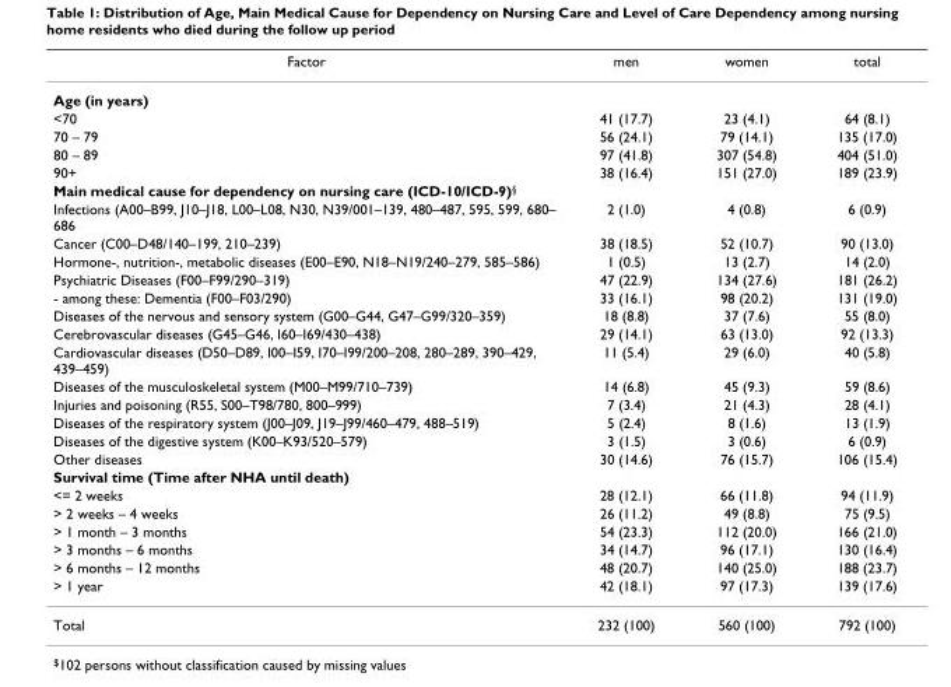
<table><thead><tr><td>Factor</td><td>men</td><td>women</td><td>total</td></tr></thead><tbody><tr><td colspan="4">Age (in years)</td></tr><tr><td>&lt;70</td><td>41 (17.7)</td><td>23 (4.1)</td><td>64 (8.1)</td></tr><tr><td>70 – 79</td><td>56 (24.1)</td><td>79 (14.1)</td><td>135 (17.0)</td></tr><tr><td>80 – 89</td><td>97 (41.8)</td><td>307 (54.8)</td><td>404 (51.0)</td></tr><tr><td>90+</td><td>38 (16.4)</td><td>151 (27.0)</td><td>189 (23.9)</td></tr><tr><td colspan="4">Main medical cause for dependency on nursing care (ICD-10/ICD-9)§</td></tr><tr><td>Infections (A00–B99, J10–J18, L00–L08, N30, N39/001–139, 480–487, 595, 599, 680– 686</td><td>2 (1.0)</td><td>4 (0.8)</td><td>6 (0.9)</td></tr><tr><td>Cancer (C00–D48/140–199, 210–239)</td><td>38 (18.5)</td><td>52 (10.7)</td><td>90 (13.0)</td></tr><tr><td>Hormone-, nutrition-, metabolic diseases (E00–E90, N18–N19/240–279, 585–586)</td><td>1 (0.5)</td><td>13 (2.7)</td><td>14 (2.0)</td></tr><tr><td>Psychiatric Diseases (F00–F99/290–319)</td><td>47 (22.9)</td><td>134 (27.6)</td><td>181 (26.2)</td></tr><tr><td>- among these: Dementia (F00–F03/290)</td><td>33 (16.1)</td><td>98 (20.2)</td><td>131 (19.0)</td></tr><tr><td>Diseases of the nervous and sensory system (G00–G44, G47–G99/320–359)</td><td>18 (8.8)</td><td>37 (7.6)</td><td>55 (8.0)</td></tr><tr><td>Cerebrovascular diseases (G45–G46, I60–I69/430–438)</td><td>29 (14.1)</td><td>63 (13.0)</td><td>92 (13.3)</td></tr><tr><td>Cardiovascular diseases (D50–D89, I00–I59, I70–I99/200–208, 280–289, 390–429, 439–459)</td><td>11 (5.4)</td><td>29 (6.0)</td><td>40 (5.8)</td></tr><tr><td>Diseases of the musculoskeletal system (M00–M99/710–739)</td><td>14 (6.8)</td><td>45 (9.3)</td><td>59 (8.6)</td></tr><tr><td>Injuries and poisoning (R55, S00–T98/780, 800–999)</td><td>7 (3.4)</td><td>21 (4.3)</td><td>28 (4.1)</td></tr><tr><td>Diseases of the respiratory system (J00–J09, J19–J99/460–479, 488–519)</td><td>5 (2.4)</td><td>8 (1.6)</td><td>13 (1.9)</td></tr><tr><td>Diseases of the digestive system (K00–K93/520–579)</td><td>3 (1.5)</td><td>3 (0.6)</td><td>6 (0.9)</td></tr><tr><td>Other diseases</td><td>30 (14.6)</td><td>76 (15.7)</td><td>106 (15.4)</td></tr><tr><td colspan="4">Survival time (Time after NHA until death)</td></tr><tr><td>&lt;= 2 weeks</td><td>28 (12.1)</td><td>66 (11.8)</td><td>94 (11.9)</td></tr><tr><td>&gt; 2 weeks – 4 weeks</td><td>26 (11.2)</td><td>49 (8.8)</td><td>75 (9.5)</td></tr><tr><td>&gt; 1 month – 3 months</td><td>54 (23.3)</td><td>112 (20.0)</td><td>166 (21.0)</td></tr><tr><td>&gt; 3 months – 6 months</td><td>34 (14.7)</td><td>96 (17.1)</td><td>130 (16.4)</td></tr><tr><td>&gt; 6 months – 12 months</td><td>48 (20.7)</td><td>140 (25.0)</td><td>188 (23.7)</td></tr><tr><td>&gt; 1 year</td><td>42 (18.1)</td><td>97 (17.3)</td><td>139 (17.6)</td></tr><tr><td>Total</td><td>232 (100)</td><td>560 (100)</td><td>792 (100)</td></tr></tbody></table>